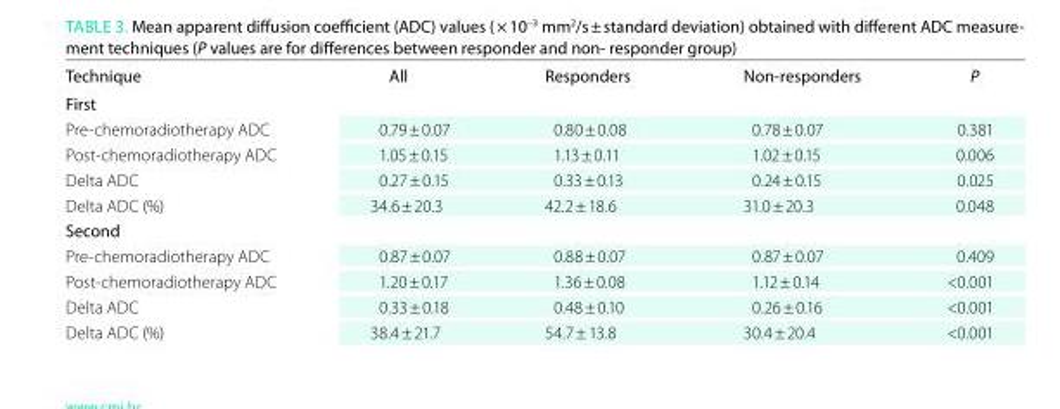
<table><thead><tr><td>technique</td><td>all</td><td>Responders</td><td>non-responders</td><td>P</td></tr></thead><tbody><tr><td colspan="5">First</td></tr><tr><td>Pre-chemoradiotherapy ADC</td><td>0.79 ± 0.07</td><td>0.80 ± 0.08</td><td>0.78 ± 0.07</td><td>0.381</td></tr><tr><td>Post-chemoradiotherapy ADC</td><td>1.05 ± 0.15</td><td>1.13 ± 0.11</td><td>1.02 ± 0.15</td><td>0.006</td></tr><tr><td>Delta ADC</td><td>0.27 ± 0.15</td><td>0.33 ± 0.13</td><td>0.24 ± 0.15</td><td>0.025</td></tr><tr><td>Delta ADC (%)</td><td>34.6 ± 20.3</td><td>42.2 ± 18.6</td><td>31.0 ± 20.3</td><td>0.048</td></tr><tr><td colspan="5">second</td></tr><tr><td>Pre-chemoradiotherapy ADC</td><td>0.87 ± 0.07</td><td>0.88 ± 0.07</td><td>0.87 ± 0.07</td><td>0.409</td></tr><tr><td>Post-chemoradiotherapy ADC</td><td>1.20 ± 0.17</td><td>1.36 ± 0.08</td><td>1.12 ± 0.14</td><td>&lt;0.001</td></tr><tr><td>Delta ADC</td><td>0.33 ± 0.18</td><td>0.48 ± 0.10</td><td>0.26 ± 0.16</td><td>&lt;0.001</td></tr><tr><td>Delta ADC (%)</td><td>38.4 ± 21.7</td><td>54.7 ± 13.8</td><td>30.4 ± 20.4</td><td>&lt;0.001</td></tr></tbody></table>